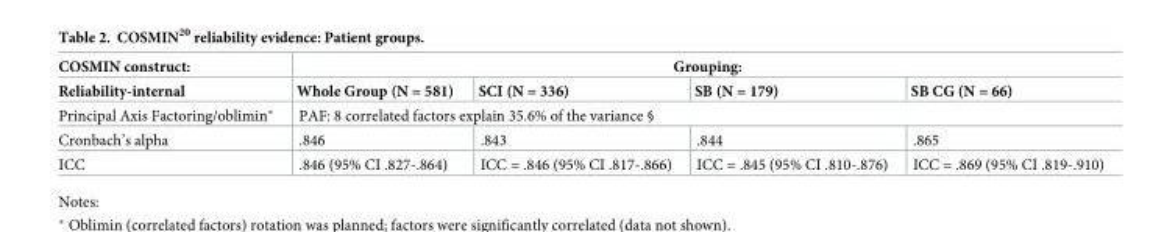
<table><thead><tr><td rowspan="2">COSMIN construct: Reliability-internal</td><td colspan="4">Grouping:</td></tr><tr><td>Whole Group (N = 581)</td><td>SCI (N = 336)</td><td>SB (N = 179)</td><td>SB CG (N = 66)</td></tr></thead><tbody><tr><td>Principal Axis Factoring/oblimin*</td><td colspan="4">PAF: 8 correlated factors explain 35.6% of the variance §</td></tr><tr><td>Cronbach’s alpha</td><td>.846</td><td>.843</td><td>.844</td><td>.865</td></tr><tr><td>ICC</td><td>.846 (95% CI .827-.864)</td><td>ICC = .846 (95% CI .817-.866)</td><td>ICC = .845 (95% CI .810-.876)</td><td>ICC = .869 (95% CI .819-.910)</td></tr></tbody></table>